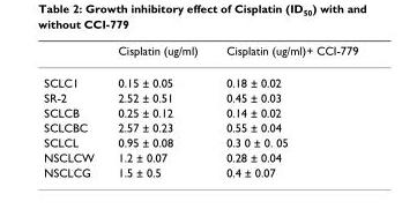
<table><thead><tr><td></td><td>Cisplatin (ug/ml)</td><td>Cisplatin (ug/ml)+ CCI-779</td></tr></thead><tbody><tr><td>SCLC1</td><td>0.15 ± 0.05</td><td>0.18 ± 0.02</td></tr><tr><td>SR-2</td><td>2.52 ± 0.51</td><td>0.45 ± 0.03</td></tr><tr><td>SCLCB</td><td>0.25 ± 0.12</td><td>0.14 ± 0.02</td></tr><tr><td>SCLCBC</td><td>2.57 ± 0.23</td><td>0.55 ± 0.04</td></tr><tr><td>SCLCL</td><td>0.95 ± 0.08</td><td>0.3 0 ± 0. 05</td></tr><tr><td>NSCLCW</td><td>1.2 ± 0.07</td><td>0.28 ± 0.04</td></tr><tr><td>NSCLCG</td><td>1.5 ± 0.5</td><td>0.4 ± 0.07</td></tr></tbody></table>